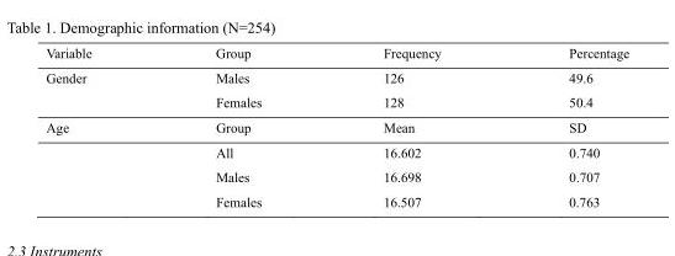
<table><thead><tr><td>Variable</td><td>Group</td><td>Frequency</td><td>Percentage</td></tr></thead><tbody><tr><td rowspan="2">Gender</td><td>Males</td><td>126</td><td>49.6</td></tr><tr><td>Females</td><td>128</td><td>50.4</td></tr><tr><td rowspan="4">Age</td><td>Group</td><td>Mean</td><td>SD</td></tr><tr><td>All</td><td>16.602</td><td>0.740</td></tr><tr><td>Males</td><td>16.698</td><td>0.707</td></tr><tr><td>Females</td><td>16.507</td><td>0.763</td></tr></tbody></table>